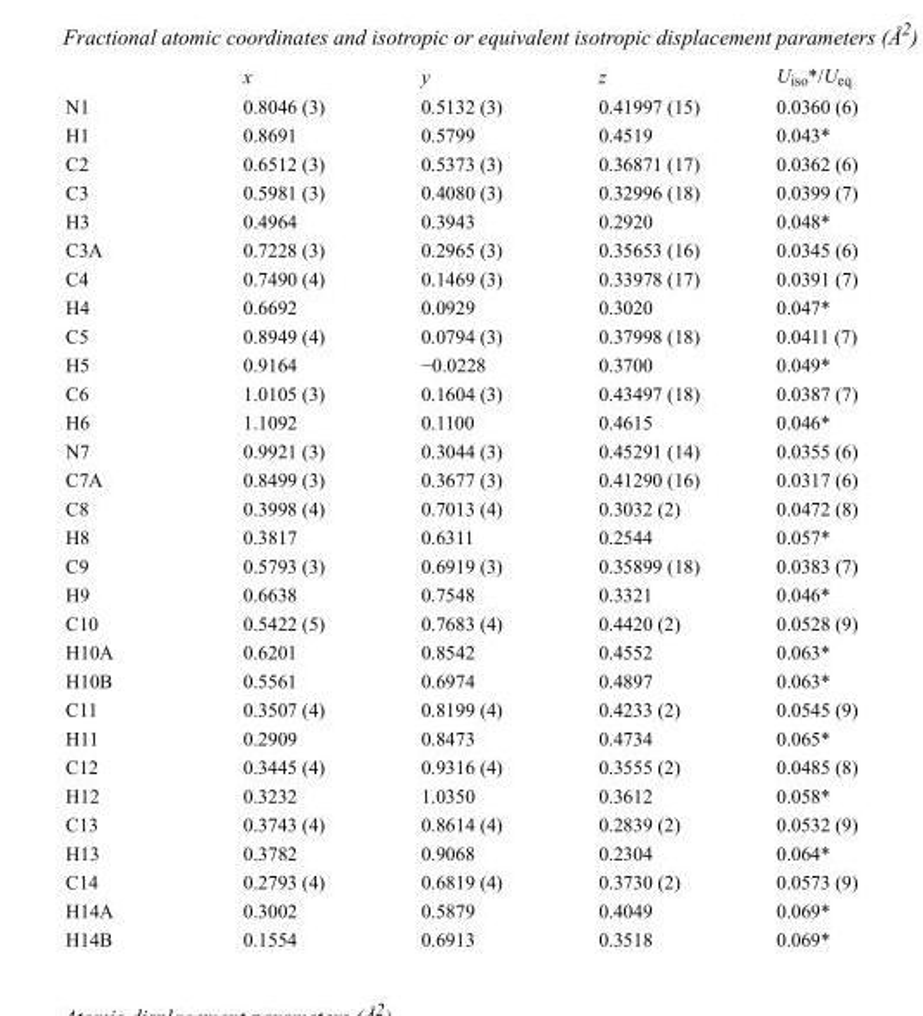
<table><thead><tr><td></td><td>x</td><td>y</td><td>z</td><td>U<sub>iso</sub>*/U<sub>eq</sub></td></tr></thead><tbody><tr><td>N1</td><td>0.8046 (3)</td><td>0.5132 (3)</td><td>0.41997 (15)</td><td>0.0360 (6)</td></tr><tr><td>H1</td><td>0.8691</td><td>0.5799</td><td>0.4519</td><td>0.043*</td></tr><tr><td>C2</td><td>0.6512 (3)</td><td>0.5373 (3)</td><td>0.36871 (17)</td><td>0.0362 (6)</td></tr><tr><td>C3</td><td>0.5981 (3)</td><td>0.4080 (3)</td><td>0.32996 (18)</td><td>0.0399 (7)</td></tr><tr><td>H3</td><td>0.4964</td><td>0.3943</td><td>0.2920</td><td>0.048*</td></tr><tr><td>C3A</td><td>0.7228 (3)</td><td>0.2965 (3)</td><td>0.35653 (16)</td><td>0.0345 (6)</td></tr><tr><td>C4</td><td>0.7490 (4)</td><td>0.1469 (3)</td><td>0.33978 (17)</td><td>0.0391 (7)</td></tr><tr><td>H4</td><td>0.6692</td><td>0.0929</td><td>0.3020</td><td>0.047*</td></tr><tr><td>C5</td><td>0.8949 (4)</td><td>0.0794 (3)</td><td>0.37998 (18)</td><td>0.0411 (7)</td></tr><tr><td>H5</td><td>0.9164</td><td>−0.0228</td><td>0.3700</td><td>0.049*</td></tr><tr><td>C6</td><td>1.0105 (3)</td><td>0.1604 (3)</td><td>0.43497 (18)</td><td>0.0387 (7)</td></tr><tr><td>H6</td><td>1.1092</td><td>0.1100</td><td>0.4615</td><td>0.046*</td></tr><tr><td>N7</td><td>0.9921 (3)</td><td>0.3044 (3)</td><td>0.45291 (14)</td><td>0.0355 (6)</td></tr><tr><td>C7A</td><td>0.8499 (3)</td><td>0.3677 (3)</td><td>0.41290 (16)</td><td>0.0317 (6)</td></tr><tr><td>C8</td><td>0.3998 (4)</td><td>0.7013 (4)</td><td>0.3032 (2)</td><td>0.0472 (8)</td></tr><tr><td>H8</td><td>0.3817</td><td>0.6311</td><td>0.2544</td><td>0.057*</td></tr><tr><td>C9</td><td>0.5793 (3)</td><td>0.6919 (3)</td><td>0.35899 (18)</td><td>0.0383 (7)</td></tr><tr><td>H9</td><td>0.6638</td><td>0.7548</td><td>0.3321</td><td>0.046*</td></tr><tr><td>C10</td><td>0.5422 (5)</td><td>0.7683 (4)</td><td>0.4420 (2)</td><td>0.0528 (9)</td></tr><tr><td>H10A</td><td>0.6201</td><td>0.8542</td><td>0.4552</td><td>0.063*</td></tr><tr><td>H10B</td><td>0.5561</td><td>0.6974</td><td>0.4897</td><td>0.063*</td></tr><tr><td>C11</td><td>0.3507 (4)</td><td>0.8199 (4)</td><td>0.4233 (2)</td><td>0.0545 (9)</td></tr><tr><td>H11</td><td>0.2909</td><td>0.8473</td><td>0.4734</td><td>0.065*</td></tr><tr><td>C12</td><td>0.3445 (4)</td><td>0.9316 (4)</td><td>0.3555 (2)</td><td>0.0485 (8)</td></tr><tr><td>H12</td><td>0.3232</td><td>1.0350</td><td>0.3612</td><td>0.058*</td></tr><tr><td>C13</td><td>0.3743 (4)</td><td>0.8614 (4)</td><td>0.2839 (2)</td><td>0.0532 (9)</td></tr><tr><td>H13</td><td>0.3782</td><td>0.9068</td><td>0.2304</td><td>0.064*</td></tr><tr><td>C14</td><td>0.2793 (4)</td><td>0.6819 (4)</td><td>0.3730 (2)</td><td>0.0573 (9)</td></tr><tr><td>H14A</td><td>0.3002</td><td>0.5879</td><td>0.4049</td><td>0.069*</td></tr><tr><td>H14B</td><td>0.1554</td><td>0.6913</td><td>0.3518</td><td>0.069*</td></tr></tbody></table>